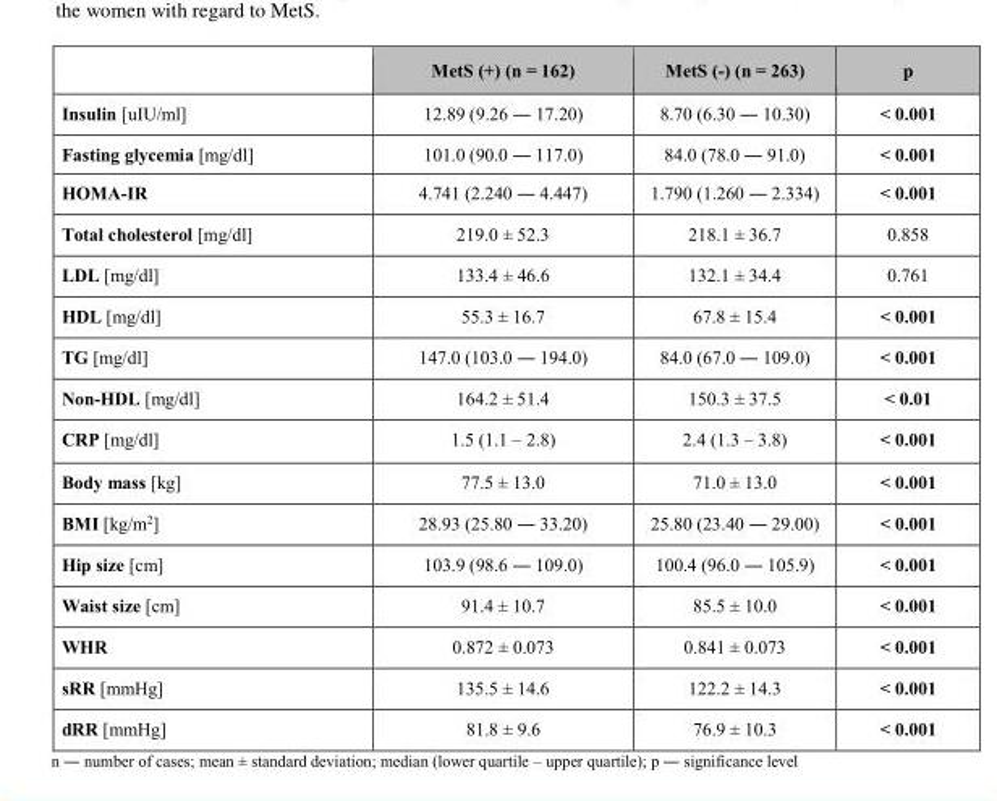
<table><thead><tr><td></td><td>MetS (+) (n = 162)</td><td>MetS (-) (n = 263)</td><td>p</td></tr></thead><tbody><tr><td>Insulin [uIU/ml]</td><td>12.89 (9.26 ― 17.20)</td><td>8.70 (6.30 ― 10.30)</td><td>&lt; 0.001</td></tr><tr><td>Fasting glycemia [mg/dl]</td><td>101.0 (90.0 ― 117.0)</td><td>84.0 (78.0 ― 91.0)</td><td>&lt; 0.001</td></tr><tr><td>HOMA-IR</td><td>4.741 (2.240 ― 4.447)</td><td>1.790 (1.260 ― 2.334)</td><td>&lt; 0.001</td></tr><tr><td>Total cholesterol [mg/dl]</td><td>219.0 ± 52.3</td><td>218.1 ± 36.7</td><td>0.858</td></tr><tr><td>LDL [mg/dl]</td><td>133.4 ± 46.6</td><td>132.1 ± 34.4</td><td>0.761</td></tr><tr><td>HDL [mg/dl]</td><td>55.3 ± 16.7</td><td>67.8 ± 15.4</td><td>&lt; 0.001</td></tr><tr><td>TG [mg/dl]</td><td>147.0 (103.0 ― 194.0)</td><td>84.0 (67.0 ― 109.0)</td><td>&lt; 0.001</td></tr><tr><td>Non-HDL [mg/dl]</td><td>164.2 ± 51.4</td><td>150.3 ± 37.5</td><td>&lt; 0.01</td></tr><tr><td>CRP [mg/dl]</td><td>1.5 (1.1 – 2.8)</td><td>2.4 (1.3 – 3.8)</td><td>&lt; 0.001</td></tr><tr><td>Body mass [kg]</td><td>77.5 ± 13.0</td><td>71.0 ± 13.0</td><td>&lt; 0.001</td></tr><tr><td>BMI [kg/m<sup>2</sup>]</td><td>28.93 (25.80 ― 33.20)</td><td>25.80 (23.40 ― 29.00)</td><td>&lt; 0.001</td></tr><tr><td>Hip size [cm]</td><td>103.9 (98.6 ― 109.0)</td><td>100.4 (96.0 ― 105.9)</td><td>&lt; 0.001</td></tr><tr><td>Waist size [cm]</td><td>91.4 ± 10.7</td><td>85.5 ± 10.0</td><td>&lt; 0.001</td></tr><tr><td>WHR</td><td>0.872 ± 0.073</td><td>0.841 ± 0.073</td><td>&lt; 0.001</td></tr><tr><td>sRR [mmHg]</td><td>135.5 ± 14.6</td><td>122.2 ± 14.3</td><td>&lt; 0.001</td></tr><tr><td>dRR [mmHg]</td><td>81.8 ± 9.6</td><td>76.9 ± 10.3</td><td>&lt; 0.001</td></tr></tbody></table>